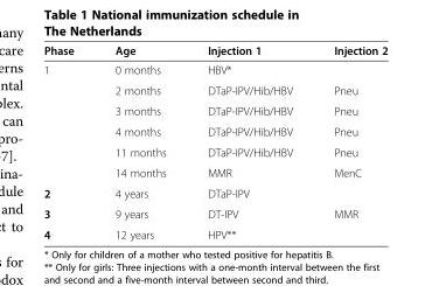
<table><thead><tr><td>Phase</td><td>Age</td><td>Injection 1</td><td>Injection 2</td></tr></thead><tbody><tr><td rowspan="6">1</td><td>0 months</td><td>HBV*</td><td></td></tr><tr><td>2 months</td><td>DTaP-IPV/Hib/HBV</td><td>Pneu</td></tr><tr><td>3 months</td><td>DTaP-IPV/Hib/HBV</td><td>Pneu</td></tr><tr><td>4 months</td><td>DTaP-IPV/Hib/HBV</td><td>Pneu</td></tr><tr><td>11 months</td><td>DTaP-IPV/Hib/HBV</td><td>Pneu</td></tr><tr><td>14 months</td><td>MMR</td><td>MenC</td></tr><tr><td>2</td><td>4 years</td><td>DTaP-IPV</td><td></td></tr><tr><td>3</td><td>9 years</td><td>DT-IPV</td><td>MMR</td></tr><tr><td>4</td><td>12 years</td><td>HPV**</td><td></td></tr></tbody></table>